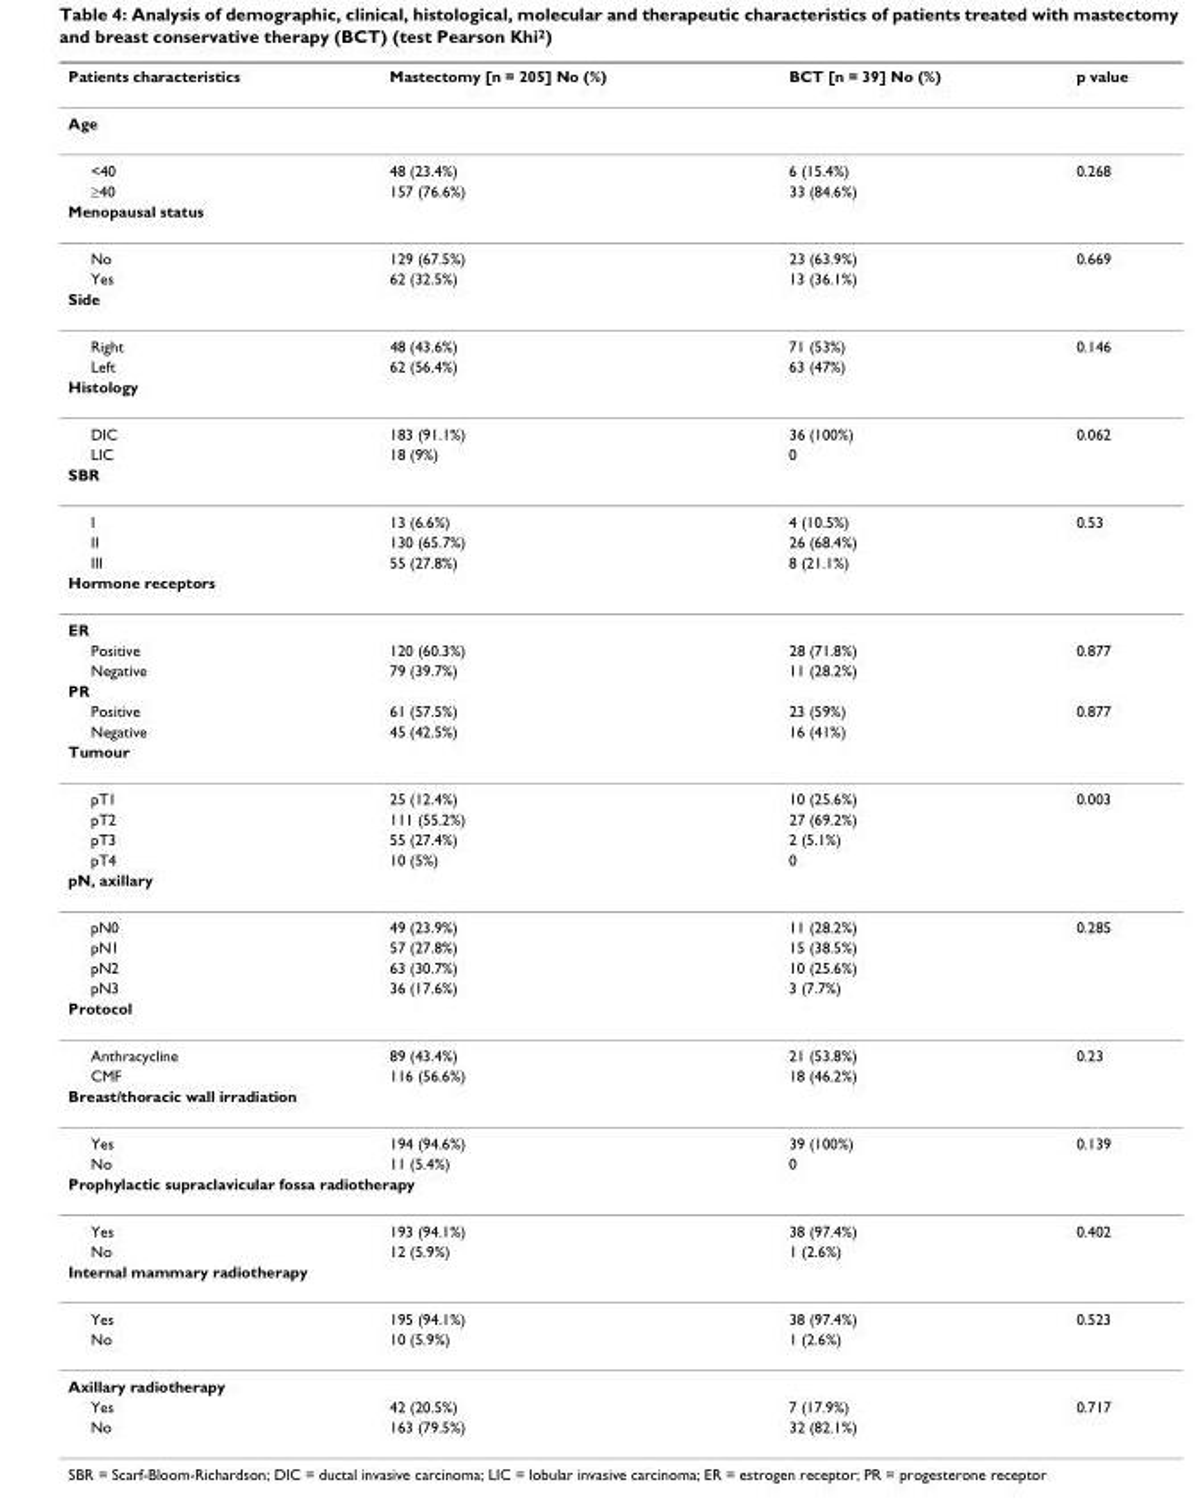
<table><thead><tr><td>Patients characteristics</td><td>Mastectomy [n = 205] No (%)</td><td>BCT [n = 39] No (%)</td><td>p value</td></tr></thead><tbody><tr><td colspan="4">Age</td></tr><tr><td>&lt;40</td><td>48 (23.4%)</td><td>6 (15.4%)</td><td>0.268</td></tr><tr><td>≥40</td><td>157 (76.6%)</td><td>33 (84.6%)</td><td></td></tr><tr><td colspan="4">Menopausal status</td></tr><tr><td>No</td><td>129 (67.5%)</td><td>23 (63.9%)</td><td>0.669</td></tr><tr><td>Yes</td><td>62 (32.5%)</td><td>13 (36.1%)</td><td></td></tr><tr><td colspan="4">Side</td></tr><tr><td>Right</td><td>48 (43.6%)</td><td>71 (53%)</td><td>0.146</td></tr><tr><td>Left</td><td>62 (56.4%)</td><td>63 (47%)</td><td></td></tr><tr><td colspan="4">Histology</td></tr><tr><td>DIC</td><td>183 (91.1%)</td><td>36 (100%)</td><td>0.062</td></tr><tr><td>LIC</td><td>18 (9%)</td><td>0</td><td></td></tr><tr><td colspan="4">SBR</td></tr><tr><td>I</td><td>13 (6.6%)</td><td>4 (10.5%)</td><td>0.53</td></tr><tr><td>II</td><td>130 (65.7%)</td><td>26 (68.4%)</td><td></td></tr><tr><td>III</td><td>55 (27.8%)</td><td>8 (21.1%)</td><td></td></tr><tr><td colspan="4">Hormone receptors</td></tr><tr><td colspan="4">ER</td></tr><tr><td>Positive</td><td>120 (60.3%)</td><td>28 (71.8%)</td><td>0.877</td></tr><tr><td>Negative</td><td>79 (39.7%)</td><td>11 (28.2%)</td><td></td></tr><tr><td colspan="4">PR</td></tr><tr><td>Positive</td><td>61 (57.5%)</td><td>23 (59%)</td><td>0.877</td></tr><tr><td>Negative</td><td>45 (42.5%)</td><td>16 (41%)</td><td></td></tr><tr><td colspan="4">Tumour</td></tr><tr><td>pT1</td><td>25 (12.4%)</td><td>10 (25.6%)</td><td>0.003</td></tr><tr><td>pT2</td><td>111 (55.2%)</td><td>27 (69.2%)</td><td></td></tr><tr><td>pT3</td><td>55 (27.4%)</td><td>2 (5.1%)</td><td></td></tr><tr><td>pT4</td><td>10 (5%)</td><td>0</td><td></td></tr><tr><td colspan="4">pN, axillary</td></tr><tr><td>pN0</td><td>49 (23.9%)</td><td>11 (28.2%)</td><td>0.285</td></tr><tr><td>pN1</td><td>57 (27.8%)</td><td>15 (38.5%)</td><td></td></tr><tr><td>pN2</td><td>63 (30.7%)</td><td>10 (25.6%)</td><td></td></tr><tr><td>pN3</td><td>36 (17.6%)</td><td>3 (7.7%)</td><td></td></tr><tr><td colspan="4">Protocol</td></tr><tr><td>Anthracycline</td><td>89 (43.4%)</td><td>21 (53.8%)</td><td>0.23</td></tr><tr><td>CMF</td><td>116 (56.6%)</td><td>18 (46.2%)</td><td></td></tr><tr><td colspan="4">Breast/thoracic wall irradiation</td></tr><tr><td>Yes</td><td>194 (94.6%)</td><td>39 (100%)</td><td>0.139</td></tr><tr><td>No</td><td>11 (5.4%)</td><td>0</td><td></td></tr><tr><td colspan="4">Prophylactic supraclavicular fossa radiotherapy</td></tr><tr><td>Yes</td><td>193 (94.1%)</td><td>38 (97.4%)</td><td>0.402</td></tr><tr><td>No</td><td>12 (5.9%)</td><td>1 (2.6%)</td><td></td></tr><tr><td colspan="4">Internal mammary radiotherapy</td></tr><tr><td>Yes</td><td>195 (94.1%)</td><td>38 (97.4%)</td><td>0.523</td></tr><tr><td>No</td><td>10 (5.9%)</td><td>1 (2.6%)</td><td></td></tr><tr><td colspan="4">Axillary radiotherapy</td></tr><tr><td>Yes</td><td>42 (20.5%)</td><td>7 (17.9%)</td><td>0.717</td></tr><tr><td>No</td><td>163 (79.5%)</td><td>32 (82.1%)</td><td></td></tr></tbody></table>